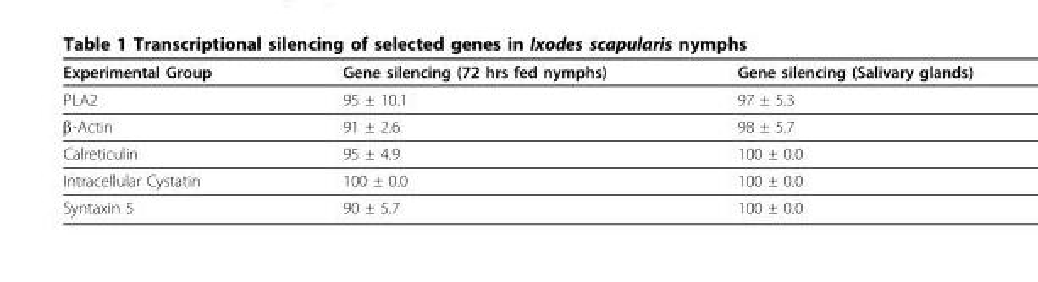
<table><thead><tr><td>Experimental Group</td><td>Gene silencing (72 hrs fed nymphs)</td><td>Gene silencing (Salivary glands)</td></tr></thead><tbody><tr><td>PLA2</td><td>95 ± 10.1</td><td>97 ± 5.3</td></tr><tr><td>β-Actin</td><td>91 ± 2.6</td><td>98 ± 5.7</td></tr><tr><td>Calreticulin</td><td>95 ± 4.9</td><td>100 ± 0.0</td></tr><tr><td>Intracellular Cystatin</td><td>100 ± 0.0</td><td>100 ± 0.0</td></tr><tr><td>Syntaxin 5</td><td>90 ± 5.7</td><td>100 ± 0.0</td></tr></tbody></table>